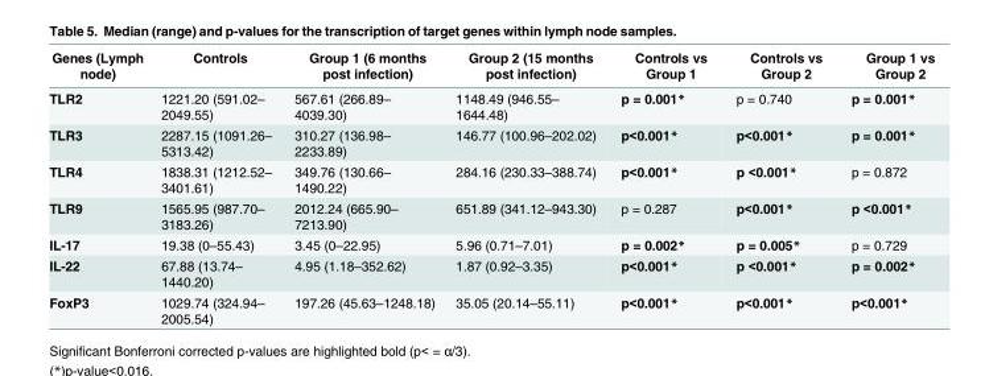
<table><thead><tr><td>Genes (Lymph node)</td><td>Controls</td><td>Group 1 (6 months post infection)</td><td>Group 2 (15 months post infection)</td><td>Controls vs Group 1</td><td>Controls vs Group 2</td><td>Group 1 vs Group 2</td></tr></thead><tbody><tr><td>TLR2</td><td>1221.20 (591.02– 2049.55)</td><td>567.61 (266.89– 4039.30)</td><td>1148.49 (946.55– 1644.48)</td><td>p = 0.001*</td><td>p = 0.740</td><td>p = 0.001*</td></tr><tr><td>TLR3</td><td>2287.15 (1091.26– 5313.42)</td><td>310.27 (136.98– 2233.89)</td><td>146.77 (100.96–202.02)</td><td>p&lt;0.001*</td><td>p&lt;0.001*</td><td>p = 0.001*</td></tr><tr><td>TLR4</td><td>1838.31 (1212.52– 3401.61)</td><td>349.76 (130.66– 1490.22)</td><td>284.16 (230.33–388.74)</td><td>p&lt;0.001*</td><td>p &lt;0.001*</td><td>p = 0.872</td></tr><tr><td>TLR9</td><td>1565.95 (987.70– 3183.26)</td><td>2012.24 (665.90– 7213.90)</td><td>651.89 (341.12–943.30)</td><td>p = 0.287</td><td>p&lt;0.001*</td><td>p &lt;0.001*</td></tr><tr><td>IL-17</td><td>19.38 (0–55.43)</td><td>3.45 (0–22.95)</td><td>5.96 (0.71–7.01)</td><td>p = 0.002*</td><td>p = 0.005*</td><td>p = 0.729</td></tr><tr><td>IL-22</td><td>67.88 (13.74– 1440.20)</td><td>4.95 (1.18–352.62)</td><td>1.87 (0.92–3.35)</td><td>p&lt;0.001*</td><td>p &lt;0.001*</td><td>p = 0.002*</td></tr><tr><td>FoxP3</td><td>1029.74 (324.94– 2005.54)</td><td>197.26 (45.63–1248.18)</td><td>35.05 (20.14–55.11)</td><td>p&lt;0.001*</td><td>p&lt;0.001*</td><td>p&lt;0.001*</td></tr></tbody></table>